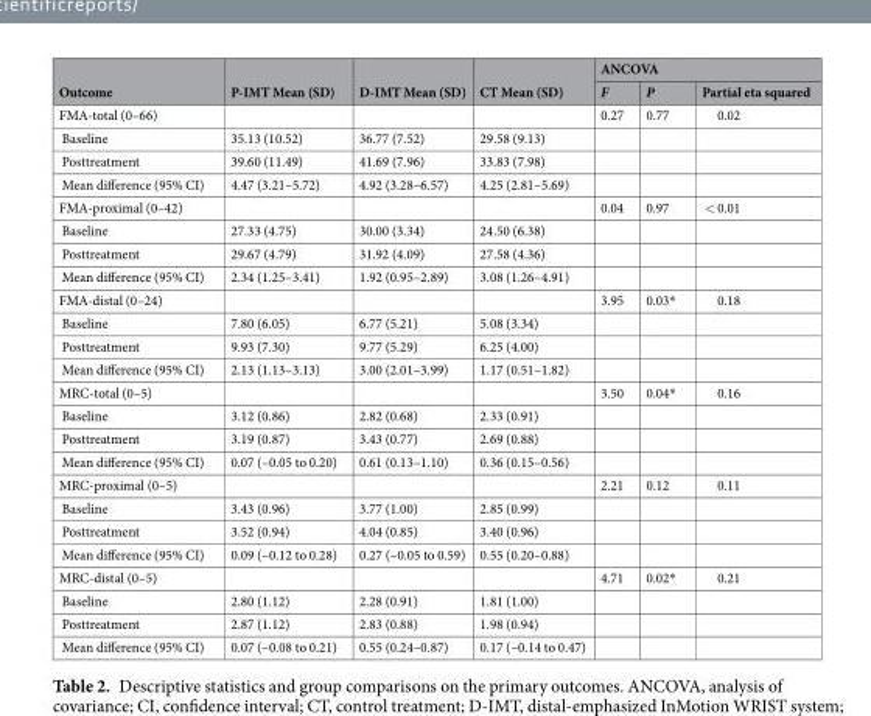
<table><thead><tr><td rowspan="2">Outcome</td><td rowspan="2">P-IMT Mean (SD)</td><td rowspan="2">D-IMT Mean (SD)</td><td rowspan="2">CT Mean (SD)</td><td colspan="3">ANCOVA</td></tr><tr><td>F</td><td>P</td><td>Partial eta squared</td></tr></thead><tbody><tr><td>FMA-total (0–66)</td><td></td><td></td><td></td><td>0.27</td><td>0.77</td><td>0.02</td></tr><tr><td>Baseline</td><td>35.13 (10.52)</td><td>36.77 (7.52)</td><td>29.58 (9.13)</td><td></td><td></td><td></td></tr><tr><td>Posttreatment</td><td>39.60 (11.49)</td><td>41.69 (7.96)</td><td>33.83 (7.98)</td><td></td><td></td><td></td></tr><tr><td>Mean difference (95% CI)</td><td>4.47 (3.21–5.72)</td><td>4.92 (3.28–6.57)</td><td>4.25 (2.81–5.69)</td><td></td><td></td><td></td></tr><tr><td>FMA-proximal (0–42)</td><td></td><td></td><td></td><td>0.04</td><td>0.97</td><td>&lt; 0.01</td></tr><tr><td>Baseline</td><td>27.33 (4.75)</td><td>30.00 (3.34)</td><td>24.50 (6.38)</td><td></td><td></td><td></td></tr><tr><td>Posttreatment</td><td>29.67 (4.79)</td><td>31.92 (4.09)</td><td>27.58 (4.36)</td><td></td><td></td><td></td></tr><tr><td>Mean difference (95% CI)</td><td>2.34 (1.25–3.41)</td><td>1.92 (0.95–2.89)</td><td>3.08 (1.26–4.91)</td><td></td><td></td><td></td></tr><tr><td>FMA-distal (0–24)</td><td></td><td></td><td></td><td>3.95</td><td>0.03*</td><td>0.18</td></tr><tr><td>Baseline</td><td>7.80 (6.05)</td><td>6.77 (5.21)</td><td>5.08 (3.34)</td><td></td><td></td><td></td></tr><tr><td>Posttreatment</td><td>9.93 (7.30)</td><td>9.77 (5.29)</td><td>6.25 (4.00)</td><td></td><td></td><td></td></tr><tr><td>Mean difference (95% CI)</td><td>2.13 (1.13–3.13)</td><td>3.00 (2.01–3.99)</td><td>1.17 (0.51–1.82)</td><td></td><td></td><td></td></tr><tr><td>MRC-total (0–5)</td><td></td><td></td><td></td><td>3.50</td><td>0.04*</td><td>0.16</td></tr><tr><td>Baseline</td><td>3.12 (0.86)</td><td>2.82 (0.68)</td><td>2.33 (0.91)</td><td></td><td></td><td></td></tr><tr><td>Posttreatment</td><td>3.19 (0.87)</td><td>3.43 (0.77)</td><td>2.69 (0.88)</td><td></td><td></td><td></td></tr><tr><td>Mean difference (95% CI)</td><td>0.07 (–0.05 to 0.20)</td><td>0.61 (0.13–1.10)</td><td>0.36 (0.15–0.56)</td><td></td><td></td><td></td></tr><tr><td>MRC-proximal (0–5)</td><td></td><td></td><td></td><td>2.21</td><td>0.12</td><td>0.11</td></tr><tr><td>Baseline</td><td>3.43 (0.96)</td><td>3.77 (1.00)</td><td>2.85 (0.99)</td><td></td><td></td><td></td></tr><tr><td>Posttreatment</td><td>3.52 (0.94)</td><td>4.04 (0.85)</td><td>3.40 (0.96)</td><td></td><td></td><td></td></tr><tr><td>Mean difference (95% CI)</td><td>0.09 (–0.12 to 0.28)</td><td>0.27 (–0.05 to 0.59)</td><td>0.55 (0.20–0.88)</td><td></td><td></td><td></td></tr><tr><td>MRC-distal (0–5)</td><td></td><td></td><td></td><td>4.71</td><td>0.02*</td><td>0.21</td></tr><tr><td>Baseline</td><td>2.80 (1.12)</td><td>2.28 (0.91)</td><td>1.81 (1.00)</td><td></td><td></td><td></td></tr><tr><td>Posttreatment</td><td>2.87 (1.12)</td><td>2.83 (0.88)</td><td>1.98 (0.94)</td><td></td><td></td><td></td></tr><tr><td>Mean difference (95% CI)</td><td>0.07 (–0.08 to 0.21)</td><td>0.55 (0.24–0.87)</td><td>0.17 (–0.14 to 0.47)</td><td></td><td></td><td></td></tr></tbody></table>